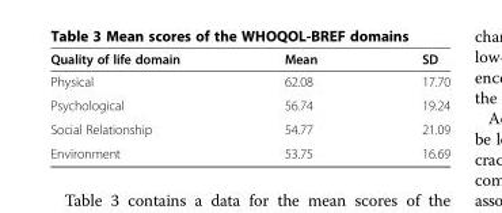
<table><thead><tr><td>Quality of life domain</td><td>Mean</td><td>SD</td></tr></thead><tbody><tr><td>Physical</td><td>62.08</td><td>17.70</td></tr><tr><td>Psychological</td><td>56.74</td><td>19.24</td></tr><tr><td>Social Relationship</td><td>54.77</td><td>21.09</td></tr><tr><td>Environment</td><td>53.75</td><td>16.69</td></tr></tbody></table>